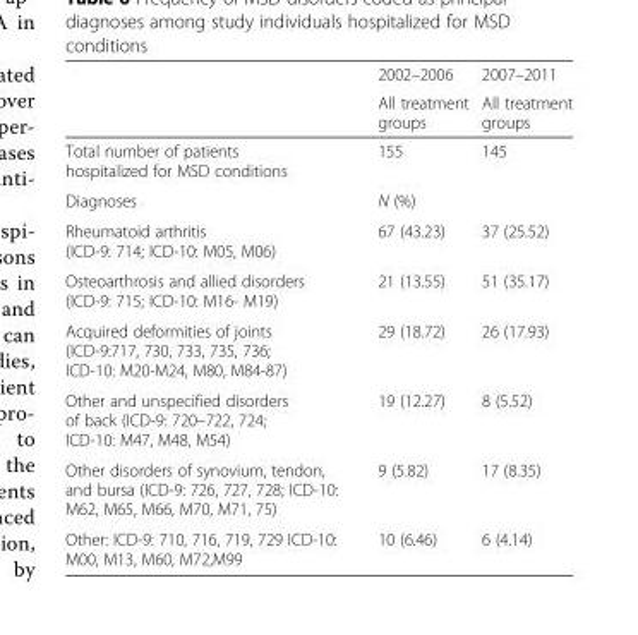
<table><thead><tr><td rowspan="2"></td><td rowspan="2">2002–2006 All treatment groups</td><td rowspan="2">2007–2011 All treatment groups</td></tr><tr></tr></thead><tbody><tr><td>Total number of patients hospitalized for MSD conditions</td><td>155</td><td>145</td></tr><tr><td>Diagnoses</td><td colspan="2">N (%)</td></tr><tr><td>Rheumatoid arthritis (ICD-9: 714; ICD-10: M05, M06)</td><td>67 (43.23)</td><td>37 (25.52)</td></tr><tr><td>Osteoarthrosis and allied disorders (ICD-9: 715; ICD-10: M16- M19)</td><td>21 (13.55)</td><td>51 (35.17)</td></tr><tr><td>Acquired deformities of joints (ICD-9:717, 730, 733, 735, 736; ICD-10: M20-M24, M80, M84-87)</td><td>29 (18.72)</td><td>26 (17.93)</td></tr><tr><td>Other and unspecified disorders of back (ICD-9: 720–722, 724; ICD-10: M47, M48, M54)</td><td>19 (12.27)</td><td>8 (5.52)</td></tr><tr><td>Other disorders of synovium, tendon, and bursa (ICD-9: 726, 727, 728; ICD-10: M62, M65, M66, M70, M71, 75)</td><td>9 (5.82)</td><td>17 (8.35)</td></tr><tr><td>Other: ICD-9: 710, 716, 719, 729 ICD-10: M00, M13, M60, M72,M99</td><td>10 (6.46)</td><td>6 (4.14)</td></tr></tbody></table>